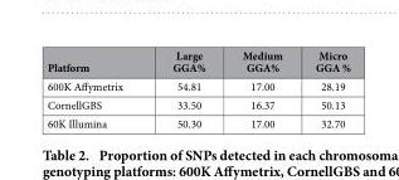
<table><thead><tr><td>Platform</td><td>Large GGA%</td><td>Medium GGA%</td><td>Micro GGA %</td></tr></thead><tbody><tr><td>600K Affymetrix</td><td>54.81</td><td>17.00</td><td>28.19</td></tr><tr><td>CornellGBS</td><td>33.50</td><td>16.37</td><td>50.13</td></tr><tr><td>60K Illumina</td><td>50.30</td><td>17.00</td><td>32.70</td></tr></tbody></table>